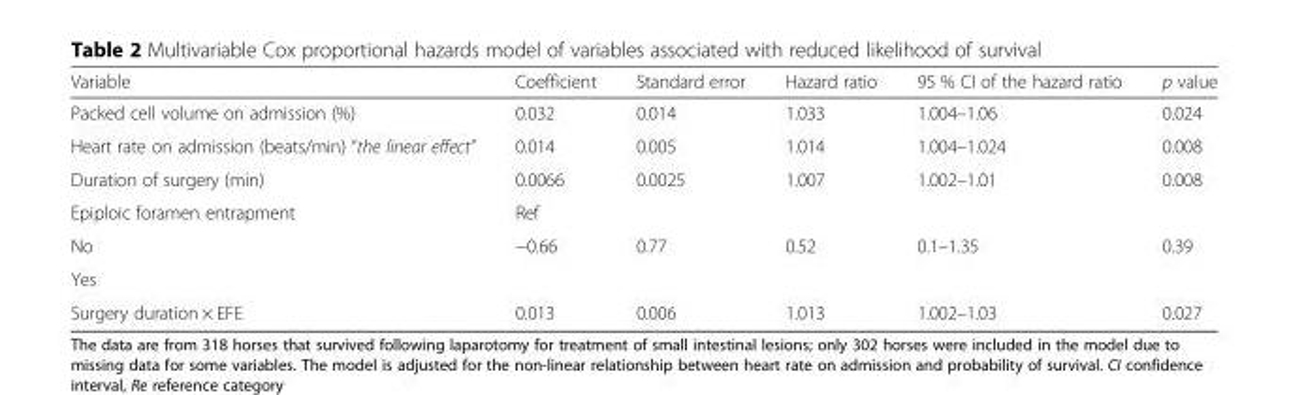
<table><thead><tr><td>Variable</td><td>Coefficient</td><td>Standard error</td><td>Hazard ratio</td><td>95 % CI of the hazard ratio</td><td>p value</td></tr></thead><tbody><tr><td>Packed cell volume on admission (%)</td><td>0.032</td><td>0.014</td><td>1.033</td><td>1.004–1.06</td><td>0.024</td></tr><tr><td>Heart rate on admission (beats/min) “the linear effect”</td><td>0.014</td><td>0.005</td><td>1.014</td><td>1.004–1.024</td><td>0.008</td></tr><tr><td>Duration of surgery (min)</td><td>0.0066</td><td>0.0025</td><td>1.007</td><td>1.002–1.01</td><td>0.008</td></tr><tr><td>Epiploic foramen entrapment</td><td colspan="5">Ref</td></tr><tr><td>No</td><td rowspan="2">−0.66</td><td rowspan="2">0.77</td><td rowspan="2">0.52</td><td rowspan="2">0.1–1.35</td><td rowspan="2">0.39</td></tr><tr><td>Yes</td></tr><tr><td>Surgery duration × EFE</td><td>0.013</td><td>0.006</td><td>1.013</td><td>1.002–1.03</td><td>0.027</td></tr></tbody></table>